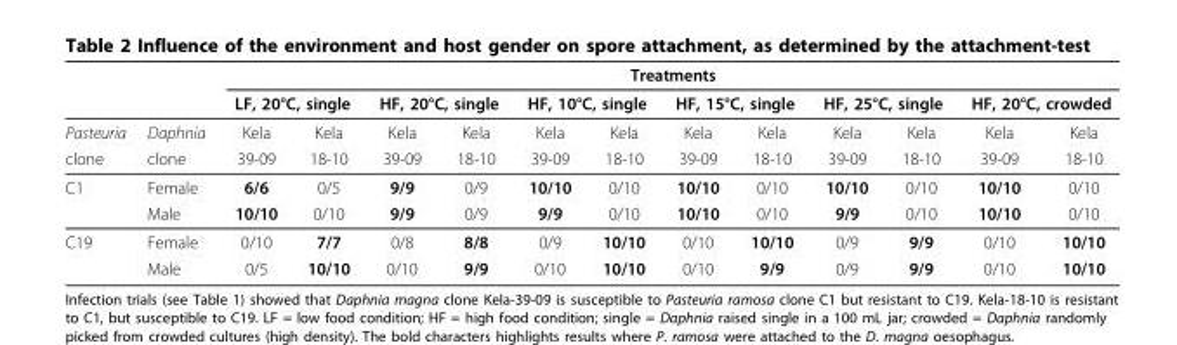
<table><thead><tr><td rowspan="3">Pasteuria</td><td rowspan="3">Daphnia</td><td colspan="12">Treatments</td></tr><tr><td colspan="2">LF, 20°C, single</td><td colspan="2">HF, 20°C, single</td><td colspan="2">HF, 10°C, single</td><td colspan="2">HF, 15°C, single</td><td colspan="2">HF, 25°C, single</td><td colspan="2">HF, 20°C, crowded</td></tr><tr><td>Kela</td><td>Kela</td><td>Kela</td><td>Kela</td><td>Kela</td><td>Kela</td><td>Kela</td><td>Kela</td><td>Kela</td><td>Kela</td><td>Kela</td><td>Kela</td></tr></thead><tbody><tr><td>clone</td><td>clone</td><td>39-09</td><td>18-10</td><td>39-09</td><td>18-10</td><td>39-09</td><td>18-10</td><td>39-09</td><td>18-10</td><td>39-09</td><td>18-10</td><td>39-09</td><td>18-10</td></tr><tr><td rowspan="2">C1</td><td>Female</td><td>6/6</td><td>0/5</td><td>9/9</td><td>0/9</td><td>10/10</td><td>0/10</td><td>10/10</td><td>0/10</td><td>10/10</td><td>0/10</td><td>10/10</td><td>0/10</td></tr><tr><td>Male</td><td>10/10</td><td>0/10</td><td>9/9</td><td>0/9</td><td>9/9</td><td>0/10</td><td>10/10</td><td>0/10</td><td>9/9</td><td>0/10</td><td>10/10</td><td>0/10</td></tr><tr><td rowspan="2">C19</td><td>Female</td><td>0/10</td><td>7/7</td><td>0/8</td><td>8/8</td><td>0/9</td><td>10/10</td><td>0/10</td><td>10/10</td><td>0/9</td><td>9/9</td><td>0/10</td><td>10/10</td></tr><tr><td>Male</td><td>0/5</td><td>10/10</td><td>0/10</td><td>9/9</td><td>0/10</td><td>10/10</td><td>0/10</td><td>9/9</td><td>0/9</td><td>9/9</td><td>0/10</td><td>10/10</td></tr></tbody></table>